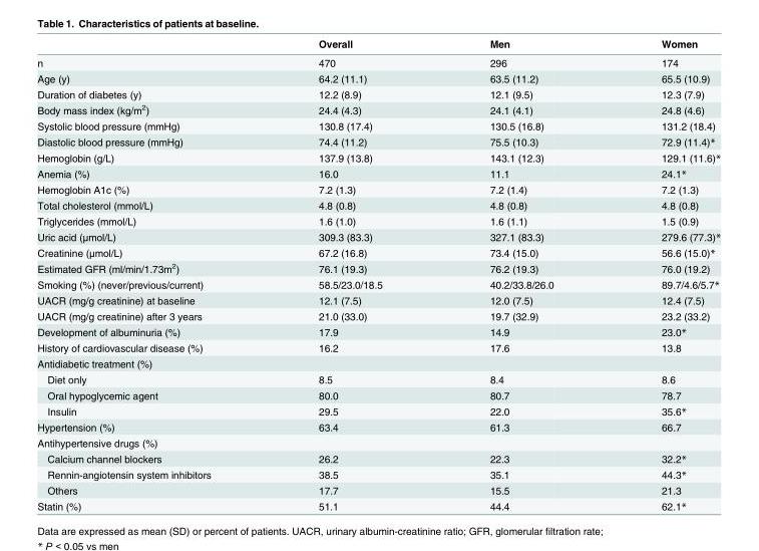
<table><thead><tr><td></td><td>Overall</td><td>Men</td><td>Women</td></tr></thead><tbody><tr><td>n</td><td>470</td><td>296</td><td>174</td></tr><tr><td>Age (y)</td><td>64.2 (11.1)</td><td>63.5 (11.2)</td><td>65.5 (10.9)</td></tr><tr><td>Duration of diabetes (y)</td><td>12.2 (8.9)</td><td>12.1 (9.5)</td><td>12.3 (7.9)</td></tr><tr><td>Body mass index (kg/m<sup>2</sup>)</td><td>24.4 (4.3)</td><td>24.1 (4.1)</td><td>24.8 (4.6)</td></tr><tr><td>Systolic blood pressure (mmHg)</td><td>130.8 (17.4)</td><td>130.5 (16.8)</td><td>131.2 (18.4)</td></tr><tr><td>Diastolic blood pressure (mmHg)</td><td>74.4 (11.2)</td><td>75.5 (10.3)</td><td>72.9 (11.4)*</td></tr><tr><td>Hemoglobin (g/L)</td><td>137.9 (13.8)</td><td>143.1 (12.3)</td><td>129.1 (11.6)*</td></tr><tr><td>Anemia (%)</td><td>16.0</td><td>11.1</td><td>24.1*</td></tr><tr><td>Hemoglobin A1c (%)</td><td>7.2 (1.3)</td><td>7.2 (1.4)</td><td>7.2 (1.3)</td></tr><tr><td>Total cholesterol (mmol/L)</td><td>4.8 (0.8)</td><td>4.8 (0.8)</td><td>4.8 (0.8)</td></tr><tr><td>Triglycerides (mmol/L)</td><td>1.6 (1.0)</td><td>1.6 (1.1)</td><td>1.5 (0.9)</td></tr><tr><td>Uric acid (μmol/L)</td><td>309.3 (83.3)</td><td>327.1 (83.3)</td><td>279.6 (77.3)*</td></tr><tr><td>Creatinine (μmol/L)</td><td>67.2 (16.8)</td><td>73.4 (15.0)</td><td>56.6 (15.0)*</td></tr><tr><td>Estimated GFR (ml/min/1.73m<sup>2</sup>)</td><td>76.1 (19.3)</td><td>76.2 (19.3)</td><td>76.0 (19.2)</td></tr><tr><td>Smoking (%) (never/previous/current)</td><td>58.5/23.0/18.5</td><td>40.2/33.8/26.0</td><td>89.7/4.6/5.7*</td></tr><tr><td>UACR (mg/g creatinine) at baseline</td><td>12.1 (7.5)</td><td>12.0 (7.5)</td><td>12.4 (7.5)</td></tr><tr><td>UACR (mg/g creatinine) after 3 years</td><td>21.0 (33.0)</td><td>19.7 (32.9)</td><td>23.2 (33.2)</td></tr><tr><td>Development of albuminuria (%)</td><td>17.9</td><td>14.9</td><td>23.0*</td></tr><tr><td>History of cardiovascular disease (%)</td><td>16.2</td><td>17.6</td><td>13.8</td></tr><tr><td colspan="4">Antidiabetic treatment (%)</td></tr><tr><td>Diet only</td><td>8.5</td><td>8.4</td><td>8.6</td></tr><tr><td>Oral hypoglycemic agent</td><td>80.0</td><td>80.7</td><td>78.7</td></tr><tr><td>Insulin</td><td>29.5</td><td>22.0</td><td>35.6*</td></tr><tr><td>Hypertension (%)</td><td>63.4</td><td>61.3</td><td>66.7</td></tr><tr><td colspan="4">Antihypertensive drugs (%)</td></tr><tr><td>Calcium channel blockers</td><td>26.2</td><td>22.3</td><td>32.2*</td></tr><tr><td>Rennin-angiotensin system inhibitors</td><td>38.5</td><td>35.1</td><td>44.3*</td></tr><tr><td>Others</td><td>17.7</td><td>15.5</td><td>21.3</td></tr><tr><td>Statin (%)</td><td>51.1</td><td>44.4</td><td>62.1*</td></tr></tbody></table>